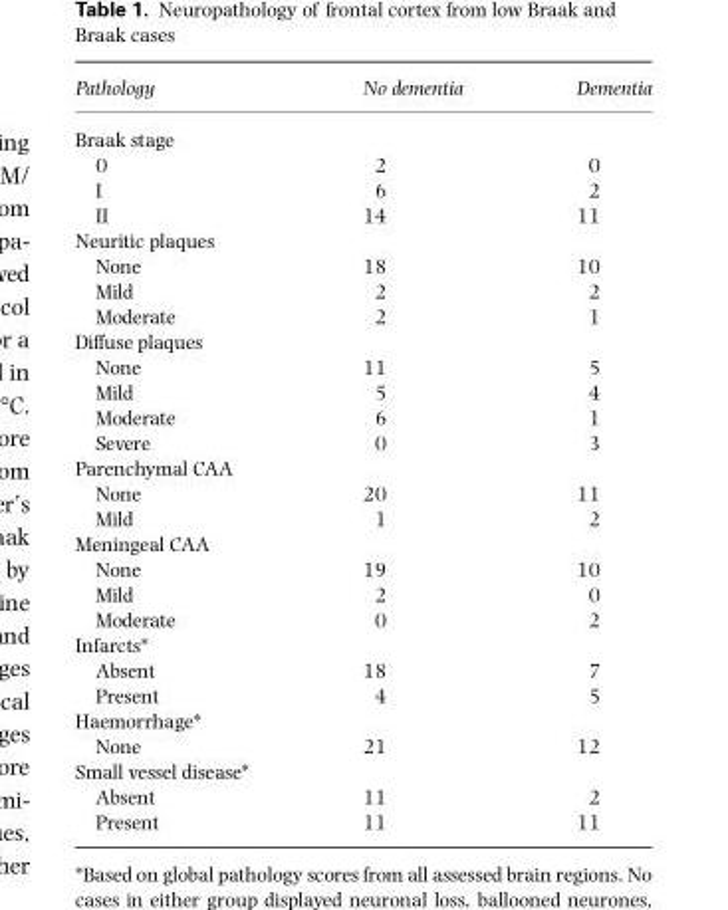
<table><thead><tr><td>Pathology</td><td>No dementia</td><td>Dementia</td></tr></thead><tbody><tr><td colspan="3">Braak stage</td></tr><tr><td>0</td><td>2</td><td>0</td></tr><tr><td>I</td><td>6</td><td>2</td></tr><tr><td>II</td><td>14</td><td>11</td></tr><tr><td colspan="3">Neuritic plaques</td></tr><tr><td>None</td><td>18</td><td>10</td></tr><tr><td>Mild</td><td>2</td><td>2</td></tr><tr><td>Moderate</td><td>2</td><td>1</td></tr><tr><td colspan="3">Diffuse plaques</td></tr><tr><td>None</td><td>11</td><td>5</td></tr><tr><td>Mild</td><td>5</td><td>4</td></tr><tr><td>Moderate</td><td>6</td><td>1</td></tr><tr><td>Severe</td><td>0</td><td>3</td></tr><tr><td colspan="3">Parenchymal CAA</td></tr><tr><td>None</td><td>20</td><td>11</td></tr><tr><td>Mild</td><td>1</td><td>2</td></tr><tr><td colspan="3">Meningeal CAA</td></tr><tr><td>None</td><td>19</td><td>10</td></tr><tr><td>Mild</td><td>2</td><td>0</td></tr><tr><td>Moderate</td><td>0</td><td>2</td></tr><tr><td colspan="3">Infarcts*</td></tr><tr><td>Absent</td><td>18</td><td>7</td></tr><tr><td>Present</td><td>4</td><td>5</td></tr><tr><td colspan="3">Haemorrhage*</td></tr><tr><td>None</td><td>21</td><td>12</td></tr><tr><td colspan="3">Small vessel disease*</td></tr><tr><td>Absent</td><td>11</td><td>2</td></tr><tr><td>Present</td><td>11</td><td>11</td></tr></tbody></table>